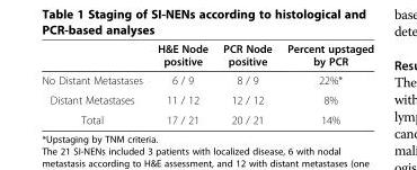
<table><thead><tr><td></td><td>H&amp;E Node positive</td><td>PCR Node positive</td><td>Percent upstaged by PCR</td></tr></thead><tbody><tr><td>No Distant Metastases</td><td>6 / 9</td><td>8 / 9</td><td>22%*</td></tr><tr><td>Distant Metastases</td><td>11 / 12</td><td>12 / 12</td><td>8%</td></tr><tr><td>Total</td><td>17 / 21</td><td>20 / 21</td><td>14%</td></tr></tbody></table>